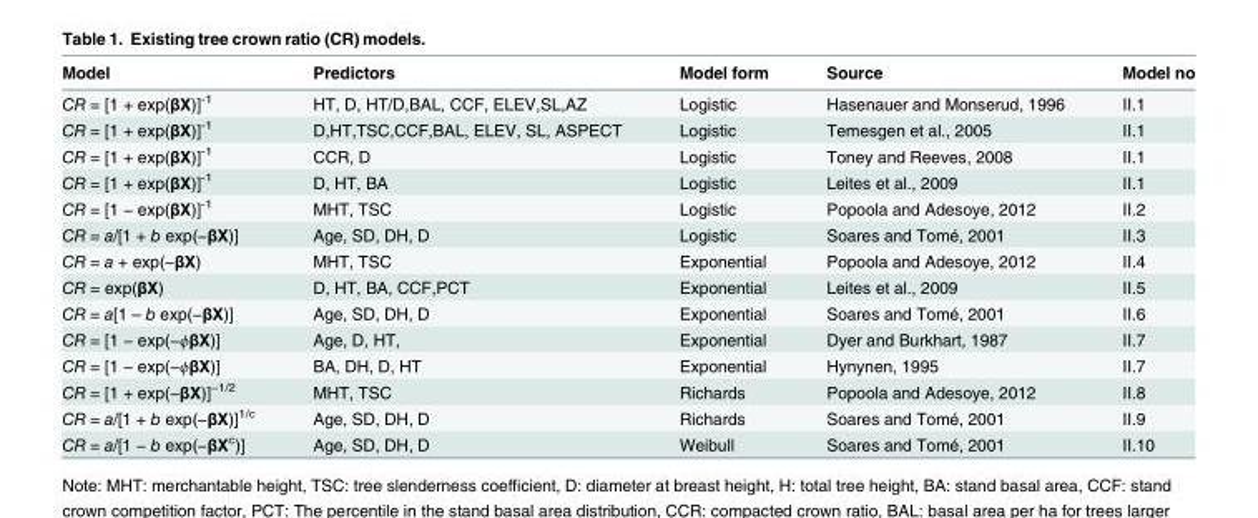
<table><thead><tr><td>Model</td><td>Predictors</td><td>Model form</td><td>Source</td><td>Model no</td></tr></thead><tbody><tr><td>CR = [1 + exp(βX)]<sup>-1</sup></td><td>HT, D, HT/D,BAL, CCF, ELEV,SL,AZ</td><td>Logistic</td><td>Hasenauer and Monserud, 1996</td><td>II.1</td></tr><tr><td>CR = [1 + exp(βX)]<sup>-1</sup></td><td>D,HT,TSC,CCF,BAL, ELEV, SL, ASPECT</td><td>Logistic</td><td>Temesgen et al., 2005</td><td>II.1</td></tr><tr><td>CR = [1 + exp(βX)]<sup>-1</sup></td><td>CCR, D</td><td>Logistic</td><td>Toney and Reeves, 2008</td><td>II.1</td></tr><tr><td>CR = [1 + exp(βX)]<sup>-1</sup></td><td>D, HT, BA</td><td>Logistic</td><td>Leites et al., 2009</td><td>II.1</td></tr><tr><td>CR = [1 − exp(βX)]<sup>-1</sup></td><td>MHT, TSC</td><td>Logistic</td><td>Popoola and Adesoye, 2012</td><td>II.2</td></tr><tr><td>CR = a/[1 + b exp(−βX)]</td><td>Age, SD, DH, D</td><td>Logistic</td><td>Soares and Tomé, 2001</td><td>II.3</td></tr><tr><td>CR = a + exp(−βX)</td><td>MHT, TSC</td><td>Exponential</td><td>Popoola and Adesoye, 2012</td><td>II.4</td></tr><tr><td>CR = exp(βX)</td><td>D, HT, BA, CCF,PCT</td><td>Exponential</td><td>Leites et al., 2009</td><td>II.5</td></tr><tr><td>CR = a[1 – b exp(−βX)]</td><td>Age, SD, DH, D</td><td>Exponential</td><td>Soares and Tomé, 2001</td><td>II.6</td></tr><tr><td>CR = [1 − exp(−ϕβX)]</td><td>Age, D, HT,</td><td>Exponential</td><td>Dyer and Burkhart, 1987</td><td>II.7</td></tr><tr><td>CR = [1 − exp(−ϕβX)]</td><td>BA, DH, D, HT</td><td>Exponential</td><td>Hynynen, 1995</td><td>II.7</td></tr><tr><td>CR = [1 + exp(−βX)]<sup>−1/2</sup></td><td>MHT, TSC</td><td>Richards</td><td>Popoola and Adesoye, 2012</td><td>II.8</td></tr><tr><td>CR = a/[1 + b exp(−βX)]<sup>1/c</sup></td><td>Age, SD, DH, D</td><td>Richards</td><td>Soares and Tomé, 2001</td><td>II.9</td></tr><tr><td>CR = a/[1 − b exp(−βX<sup>c</sup>)]</td><td>Age, SD, DH, D</td><td>Weibull</td><td>Soares and Tomé, 2001</td><td>II.10</td></tr></tbody></table>